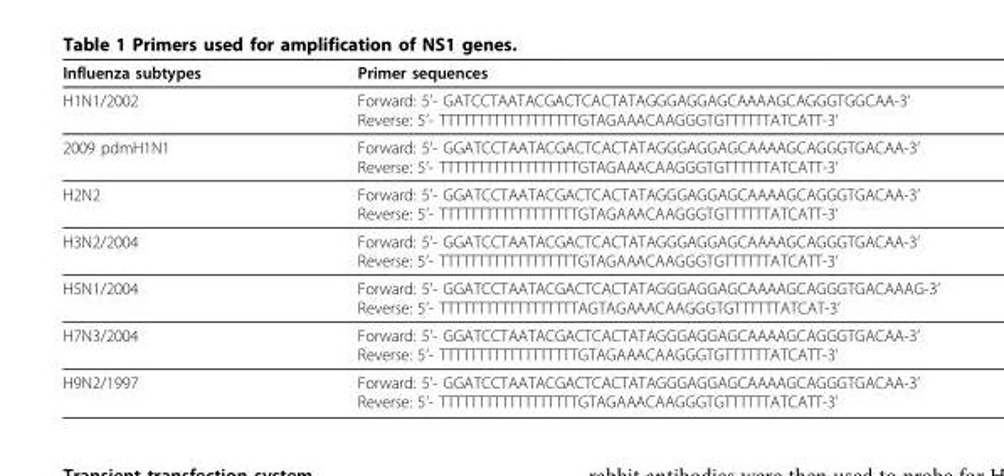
<table><thead><tr><td>Influenza subtypes</td><td>Primer sequences</td></tr></thead><tbody><tr><td>H1N1/2002</td><td>Forward: 5’- GATCCTAATACGACTCACTATAGGGAGGAGCAAAAGCAGGGTGGCAA-3’ Reverse: 5’- TTTTTTTTTTTTTTTTTTGTAGAAACAAGGGTGTTTTTTATCATT-3’</td></tr><tr><td>2009 pdmH1N1</td><td>Forward: 5’- GGATCCTAATACGACTCACTATAGGGAGGAGCAAAAGCAGGGTGACAA-3’ Reverse: 5’- TTTTTTTTTTTTTTTTTTGTAGAAACAAGGGTGTTTTTTATCATT-3’</td></tr><tr><td>H2N2</td><td>Forward: 5’- GGATCCTAATACGACTCACTATAGGGAGGAGCAAAAGCAGGGTGACAA-3’ Reverse: 5’- TTTTTTTTTTTTTTTTTTGTAGAAACAAGGGTGTTTTTTATCATT-3’</td></tr><tr><td>H3N2/2004</td><td>Forward: 5’- GGATCCTAATACGACTCACTATAGGGAGGAGCAAAAGCAGGGTGACAA-3’ Reverse: 5’- TTTTTTTTTTTTTTTTTTGTAGAAACAAGGGTGTTTTTTATCATT-3’</td></tr><tr><td>H5N1/2004</td><td>Forward: 5’- GGATCCTAATACGACTCACTATAGGGAGGAGCAAAAGCAGGGTGACAAAG-3’ Reverse: 5’- TTTTTTTTTTTTTTTTTTAGTAGAAACAAGGGTGTTTTTTATCAT-3’</td></tr><tr><td>H7N3/2004</td><td>Forward: 5’- GGATCCTAATACGACTCACTATAGGGAGGAGCAAAAGCAGGGTGACAA-3’ Reverse: 5’- TTTTTTTTTTTTTTTTTTGTAGAAACAAGGGTGTTTTTTATCATT-3’</td></tr><tr><td>H9N2/1997</td><td>Forward: 5’- GGATCCTAATACGACTCACTATAGGGAGGAGCAAAAGCAGGGTGACAA-3’ Reverse: 5’- TTTTTTTTTTTTTTTTTTGTAGAAACAAGGGTGTTTTTTATCATT-3’</td></tr></tbody></table>